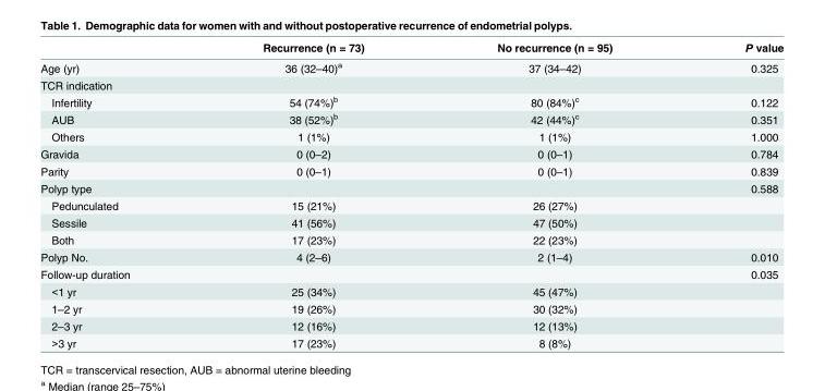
<table><thead><tr><td></td><td>Recurrence (n = 73)</td><td>No recurrence (n = 95)</td><td>P value</td></tr></thead><tbody><tr><td>Age (yr)</td><td>36 (32–40)<sup>a</sup></td><td>37 (34–42)</td><td>0.325</td></tr><tr><td colspan="4">TCR indication</td></tr><tr><td>Infertility</td><td>54 (74%)<sup>b</sup></td><td>80 (84%)<sup>c</sup></td><td>0.122</td></tr><tr><td>AUB</td><td>38 (52%)<sup>b</sup></td><td>42 (44%)<sup>c</sup></td><td>0.351</td></tr><tr><td>Others</td><td>1 (1%)</td><td>1 (1%)</td><td>1.000</td></tr><tr><td>Gravida</td><td>0 (0–2)</td><td>0 (0–1)</td><td>0.784</td></tr><tr><td>Parity</td><td>0 (0–1)</td><td>0 (0–1)</td><td>0.839</td></tr><tr><td>Polyp type</td><td></td><td></td><td>0.588</td></tr><tr><td>Pedunculated</td><td>15 (21%)</td><td>26 (27%)</td><td></td></tr><tr><td>Sessile</td><td>41 (56%)</td><td>47 (50%)</td><td></td></tr><tr><td>Both</td><td>17 (23%)</td><td>22 (23%)</td><td></td></tr><tr><td>Polyp No.</td><td>4 (2–6)</td><td>2 (1–4)</td><td>0.010</td></tr><tr><td>Follow-up duration</td><td></td><td></td><td>0.035</td></tr><tr><td>&lt;1 yr</td><td>25 (34%)</td><td>45 (47%)</td><td></td></tr><tr><td>1–2 yr</td><td>19 (26%)</td><td>30 (32%)</td><td></td></tr><tr><td>2–3 yr</td><td>12 (16%)</td><td>12 (13%)</td><td></td></tr><tr><td>&gt;3 yr</td><td>17 (23%)</td><td>8 (8%)</td><td></td></tr></tbody></table>